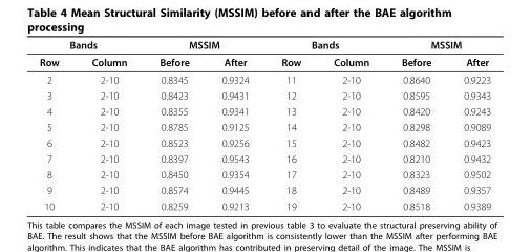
<table><thead><tr><td colspan="2">Bands</td><td colspan="2">MSSIM</td><td colspan="2">Bands</td><td colspan="2">MSSIM</td></tr><tr><td>Row</td><td>Column</td><td>Before</td><td>After</td><td>Row</td><td>Column</td><td>Before</td><td>After</td></tr></thead><tbody><tr><td>2</td><td>2-10</td><td>0.8345</td><td>0.9324</td><td>11</td><td>2-10</td><td>0.8640</td><td>0.9223</td></tr><tr><td>3</td><td>2-10</td><td>0.8423</td><td>0.9431</td><td>12</td><td>2-10</td><td>0.8595</td><td>0.9343</td></tr><tr><td>4</td><td>2-10</td><td>0.8355</td><td>0.9341</td><td>13</td><td>2-10</td><td>0.8420</td><td>0.9243</td></tr><tr><td>5</td><td>2-10</td><td>0.8785</td><td>0.9125</td><td>14</td><td>2-10</td><td>0.8298</td><td>0.9089</td></tr><tr><td>6</td><td>2-10</td><td>0.8523</td><td>0.9256</td><td>15</td><td>2-10</td><td>0.8482</td><td>0.9423</td></tr><tr><td>7</td><td>2-10</td><td>0.8397</td><td>0.9543</td><td>16</td><td>2-10</td><td>0.8210</td><td>0.9432</td></tr><tr><td>8</td><td>2-10</td><td>0.8450</td><td>0.9354</td><td>17</td><td>2-10</td><td>0.8323</td><td>0.9502</td></tr><tr><td>9</td><td>2-10</td><td>0.8574</td><td>0.9445</td><td>18</td><td>2-10</td><td>0.8489</td><td>0.9357</td></tr><tr><td>10</td><td>2-10</td><td>0.8259</td><td>0.9213</td><td>19</td><td>2-10</td><td>0.8518</td><td>0.9389</td></tr></tbody></table>